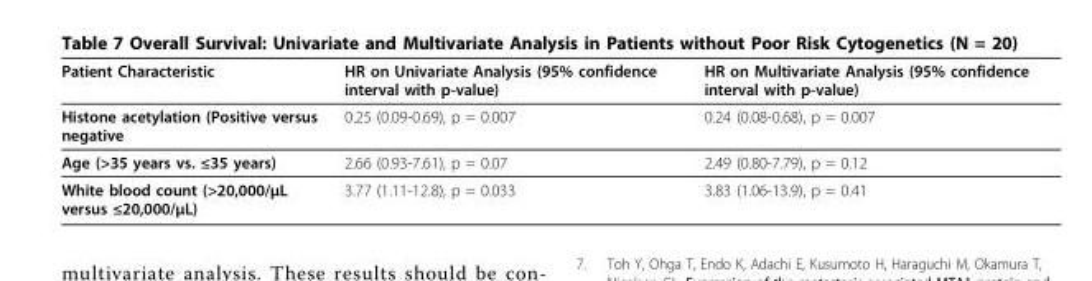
<table><thead><tr><td>Patient Characteristic</td><td>HR on Univariate Analysis (95% confidence interval with p-value)</td><td>HR on Multivariate Analysis (95% confidence interval with p-value)</td></tr></thead><tbody><tr><td>Histone acetylation (Positive versus negative</td><td>0.25 (0.09-0.69), p = 0.007</td><td>0.24 (0.08-0.68), p = 0.007</td></tr><tr><td>Age (&gt;35 years vs. ≤35 years)</td><td>2.66 (0.93-7.61), p = 0.07</td><td>2.49 (0.80-7.79), p = 0.12</td></tr><tr><td>White blood count (&gt;20,000/μL versus ≤20,000/μL)</td><td>3.77 (1.11-12.8), p = 0.033</td><td>3.83 (1.06-13.9), p = 0.41</td></tr></tbody></table>